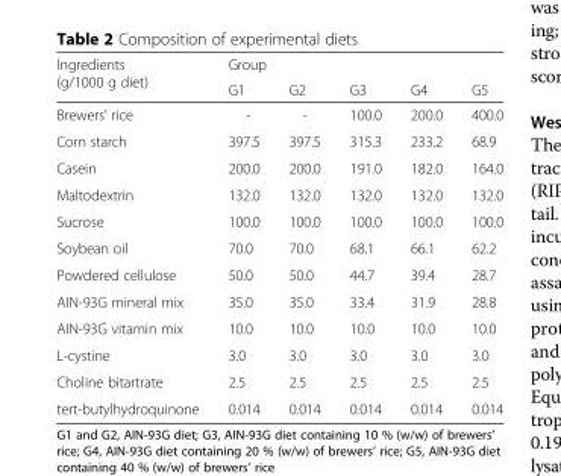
<table><thead><tr><td rowspan="2">Ingredients (g/1000 g diet)</td><td colspan="5">Group</td></tr><tr><td>G1</td><td>G2</td><td>G3</td><td>G4</td><td>G5</td></tr></thead><tbody><tr><td>Brewers’ rice</td><td>-</td><td>-</td><td>100.0</td><td>200.0</td><td>400.0</td></tr><tr><td>Corn starch</td><td>397.5</td><td>397.5</td><td>315.3</td><td>233.2</td><td>68.9</td></tr><tr><td>Casein</td><td>200.0</td><td>200.0</td><td>191.0</td><td>182.0</td><td>164.0</td></tr><tr><td>Maltodextrin</td><td>132.0</td><td>132.0</td><td>132.0</td><td>132.0</td><td>132.0</td></tr><tr><td>Sucrose</td><td>100.0</td><td>100.0</td><td>100.0</td><td>100.0</td><td>100.0</td></tr><tr><td>Soybean oil</td><td>70.0</td><td>70.0</td><td>68.1</td><td>66.1</td><td>62.2</td></tr><tr><td>Powdered cellulose</td><td>50.0</td><td>50.0</td><td>44.7</td><td>39.4</td><td>28.7</td></tr><tr><td>AIN-93G mineral mix</td><td>35.0</td><td>35.0</td><td>33.4</td><td>31.9</td><td>28.8</td></tr><tr><td>AIN-93G vitamin mix</td><td>10.0</td><td>10.0</td><td>10.0</td><td>10.0</td><td>10.0</td></tr><tr><td>L-cystine</td><td>3.0</td><td>3.0</td><td>3.0</td><td>3.0</td><td>3.0</td></tr><tr><td>Choline bitartrate</td><td>2.5</td><td>2.5</td><td>2.5</td><td>2.5</td><td>2.5</td></tr><tr><td>tert-butylhydroquinone</td><td>0.014</td><td>0.014</td><td>0.014</td><td>0.014</td><td>0.014</td></tr></tbody></table>